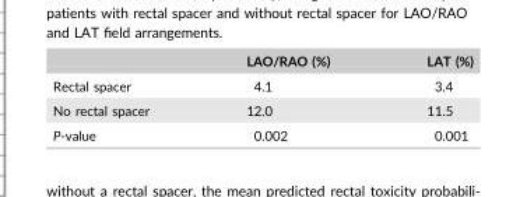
<table><thead><tr><td></td><td>LAO/RAO (%)</td><td>LAT (%)</td></tr></thead><tbody><tr><td>Rectal spacer</td><td>4.1</td><td>3.4</td></tr><tr><td>No rectal spacer</td><td>12.0</td><td>11.5</td></tr><tr><td>P-value</td><td>0.002</td><td>0.001</td></tr></tbody></table>